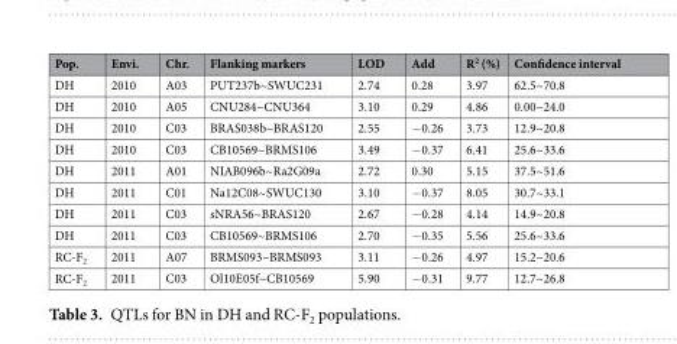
<table><thead><tr><td>Pop.</td><td>Envi.</td><td>Chr.</td><td>Flanking markers</td><td>LOD</td><td>Add</td><td>R<sup>2</sup> (%)</td><td>Confidence interval</td></tr></thead><tbody><tr><td>DH</td><td>2010</td><td>A03</td><td>PUT237b~SWUC231</td><td>2.74</td><td>0.28</td><td>3.97</td><td>62.5~70.8</td></tr><tr><td>DH</td><td>2010</td><td>A05</td><td>CNU284~CNU364</td><td>3.10</td><td>0.29</td><td>4.86</td><td>0.00~24.0</td></tr><tr><td>DH</td><td>2010</td><td>C03</td><td>BRAS038b~BRAS120</td><td>2.55</td><td>−0.26</td><td>3.73</td><td>12.9~20.8</td></tr><tr><td>DH</td><td>2010</td><td>C03</td><td>CB10569~BRMS106</td><td>3.49</td><td>−0.37</td><td>6.41</td><td>25.6~33.6</td></tr><tr><td>DH</td><td>2011</td><td>A01</td><td>NIAB096b~Ra2G09a</td><td>2.72</td><td>0.30</td><td>5.15</td><td>37.5~51.6</td></tr><tr><td>DH</td><td>2011</td><td>C01</td><td>Na12C08~SWUC130</td><td>3.10</td><td>−0.37</td><td>8.05</td><td>30.7~33.1</td></tr><tr><td>DH</td><td>2011</td><td>C03</td><td>sNRA56~BRAS120</td><td>2.67</td><td>−0.28</td><td>4.14</td><td>14.9~20.8</td></tr><tr><td>DH</td><td>2011</td><td>C03</td><td>CB10569~BRMS106</td><td>2.70</td><td>−0.35</td><td>5.56</td><td>25.6~33.6</td></tr><tr><td>RC-F<sub>2</sub></td><td>2011</td><td>A07</td><td>BRMS093~BRMS093</td><td>3.11</td><td>−0.26</td><td>4.97</td><td>15.2~20.6</td></tr><tr><td>RC-F<sub>2</sub></td><td>2011</td><td>C03</td><td>Ol10E05f~CB10569</td><td>5.90</td><td>−0.31</td><td>9.77</td><td>12.7~26.8</td></tr></tbody></table>